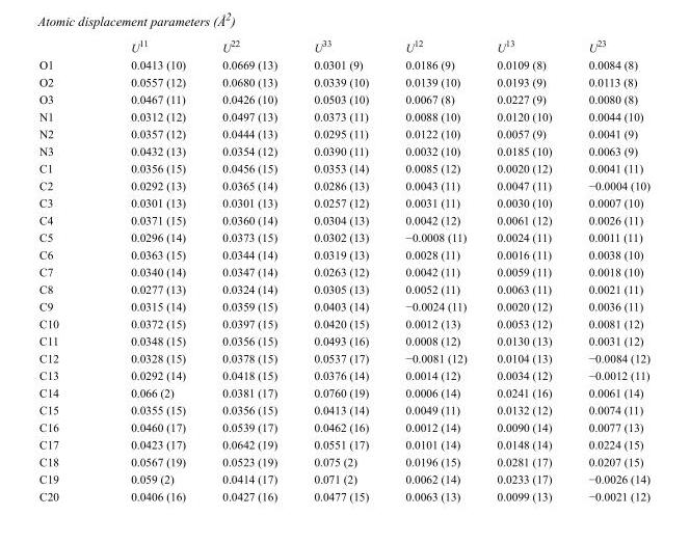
<table><thead><tr><td></td><td>U<sup>11</sup></td><td>U<sup>22</sup></td><td>U<sup>33</sup></td><td>U<sup>12</sup></td><td>U<sup>13</sup></td><td>U<sup>23</sup></td></tr></thead><tbody><tr><td>O1</td><td>0.0413 (10)</td><td>0.0669 (13)</td><td>0.0301 (9)</td><td>0.0186 (9)</td><td>0.0109 (8)</td><td>0.0084 (8)</td></tr><tr><td>O2</td><td>0.0557 (12)</td><td>0.0680 (13)</td><td>0.0339 (10)</td><td>0.0139 (10)</td><td>0.0193 (9)</td><td>0.0113 (8)</td></tr><tr><td>O3</td><td>0.0467 (11)</td><td>0.0426 (10)</td><td>0.0503 (10)</td><td>0.0067 (8)</td><td>0.0227 (9)</td><td>0.0080 (8)</td></tr><tr><td>N1</td><td>0.0312 (12)</td><td>0.0497 (13)</td><td>0.0373 (11)</td><td>0.0088 (10)</td><td>0.0120 (10)</td><td>0.0044 (10)</td></tr><tr><td>N2</td><td>0.0357 (12)</td><td>0.0444 (13)</td><td>0.0295 (11)</td><td>0.0122 (10)</td><td>0.0057 (9)</td><td>0.0041 (9)</td></tr><tr><td>N3</td><td>0.0432 (13)</td><td>0.0354 (12)</td><td>0.0390 (11)</td><td>0.0032 (10)</td><td>0.0185 (10)</td><td>0.0063 (9)</td></tr><tr><td>C1</td><td>0.0356 (15)</td><td>0.0456 (15)</td><td>0.0353 (14)</td><td>0.0085 (12)</td><td>0.0020 (12)</td><td>0.0041 (11)</td></tr><tr><td>C2</td><td>0.0292 (13)</td><td>0.0365 (14)</td><td>0.0286 (13)</td><td>0.0043 (11)</td><td>0.0047 (11)</td><td>−0.0004 (10)</td></tr><tr><td>C3</td><td>0.0301 (13)</td><td>0.0301 (13)</td><td>0.0257 (12)</td><td>0.0031 (11)</td><td>0.0030 (10)</td><td>0.0007 (10)</td></tr><tr><td>C4</td><td>0.0371 (15)</td><td>0.0360 (14)</td><td>0.0304 (13)</td><td>0.0042 (12)</td><td>0.0061 (12)</td><td>0.0026 (11)</td></tr><tr><td>C5</td><td>0.0296 (14)</td><td>0.0373 (15)</td><td>0.0302 (13)</td><td>−0.0008 (11)</td><td>0.0024 (11)</td><td>0.0011 (11)</td></tr><tr><td>C6</td><td>0.0363 (15)</td><td>0.0344 (14)</td><td>0.0319 (13)</td><td>0.0028 (11)</td><td>0.0016 (11)</td><td>0.0038 (10)</td></tr><tr><td>C7</td><td>0.0340 (14)</td><td>0.0347 (14)</td><td>0.0263 (12)</td><td>0.0042 (11)</td><td>0.0059 (11)</td><td>0.0018 (10)</td></tr><tr><td>C8</td><td>0.0277 (13)</td><td>0.0324 (14)</td><td>0.0305 (13)</td><td>0.0052 (11)</td><td>0.0063 (11)</td><td>0.0021 (11)</td></tr><tr><td>C9</td><td>0.0315 (14)</td><td>0.0359 (15)</td><td>0.0403 (14)</td><td>−0.0024 (11)</td><td>0.0020 (12)</td><td>0.0036 (11)</td></tr><tr><td>C10</td><td>0.0372 (15)</td><td>0.0397 (15)</td><td>0.0420 (15)</td><td>0.0012 (13)</td><td>0.0053 (12)</td><td>0.0081 (12)</td></tr><tr><td>C11</td><td>0.0348 (15)</td><td>0.0356 (15)</td><td>0.0493 (16)</td><td>0.0008 (12)</td><td>0.0130 (13)</td><td>0.0031 (12)</td></tr><tr><td>C12</td><td>0.0328 (15)</td><td>0.0378 (15)</td><td>0.0537 (17)</td><td>−0.0081 (12)</td><td>0.0104 (13)</td><td>−0.0084 (12)</td></tr><tr><td>C13</td><td>0.0292 (14)</td><td>0.0418 (15)</td><td>0.0376 (14)</td><td>0.0014 (12)</td><td>0.0034 (12)</td><td>−0.0012 (11)</td></tr><tr><td>C14</td><td>0.066 (2)</td><td>0.0381 (17)</td><td>0.0760 (19)</td><td>0.0006 (14)</td><td>0.0241 (16)</td><td>0.0061 (14)</td></tr><tr><td>C15</td><td>0.0355 (15)</td><td>0.0356 (15)</td><td>0.0413 (14)</td><td>0.0049 (11)</td><td>0.0132 (12)</td><td>0.0074 (11)</td></tr><tr><td>C16</td><td>0.0460 (17)</td><td>0.0539 (17)</td><td>0.0462 (16)</td><td>0.0012 (14)</td><td>0.0090 (14)</td><td>0.0077 (13)</td></tr><tr><td>C17</td><td>0.0423 (17)</td><td>0.0642 (19)</td><td>0.0551 (17)</td><td>0.0101 (14)</td><td>0.0148 (14)</td><td>0.0224 (15)</td></tr><tr><td>C18</td><td>0.0567 (19)</td><td>0.0523 (19)</td><td>0.075 (2)</td><td>0.0196 (15)</td><td>0.0281 (17)</td><td>0.0207 (15)</td></tr><tr><td>C19</td><td>0.059 (2)</td><td>0.0414 (17)</td><td>0.071 (2)</td><td>0.0062 (14)</td><td>0.0233 (17)</td><td>−0.0026 (14)</td></tr><tr><td>C20</td><td>0.0406 (16)</td><td>0.0427 (16)</td><td>0.0477 (15)</td><td>0.0063 (13)</td><td>0.0099 (13)</td><td>−0.0021 (12)</td></tr></tbody></table>